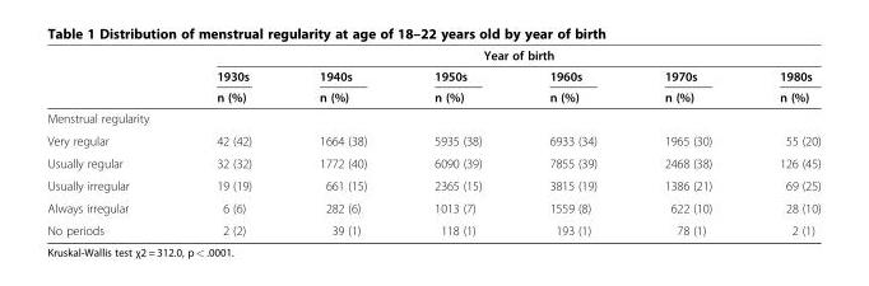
<table><thead><tr><td rowspan="3"></td><td colspan="6">Year of birth</td></tr><tr><td rowspan="2">1930s n (%)</td><td rowspan="2">1940s n (%)</td><td rowspan="2">1950s n (%)</td><td rowspan="2">1960s n (%)</td><td rowspan="2">1970s n (%)</td><td rowspan="2">1980s n (%)</td></tr><tr></tr></thead><tbody><tr><td colspan="7">Menstrual regularity</td></tr><tr><td>Very regular</td><td>42 (42)</td><td>1664 (38)</td><td>5935 (38)</td><td>6933 (34)</td><td>1965 (30)</td><td>55 (20)</td></tr><tr><td>Usually regular</td><td>32 (32)</td><td>1772 (40)</td><td>6090 (39)</td><td>7855 (39)</td><td>2468 (38)</td><td>126 (45)</td></tr><tr><td>Usually irregular</td><td>19 (19)</td><td>661 (15)</td><td>2365 (15)</td><td>3815 (19)</td><td>1386 (21)</td><td>69 (25)</td></tr><tr><td>Always irregular</td><td>6 (6)</td><td>282 (6)</td><td>1013 (7)</td><td>1559 (8)</td><td>622 (10)</td><td>28 (10)</td></tr><tr><td>No periods</td><td>2 (2)</td><td>39 (1)</td><td>118 (1)</td><td>193 (1)</td><td>78 (1)</td><td>2 (1)</td></tr></tbody></table>